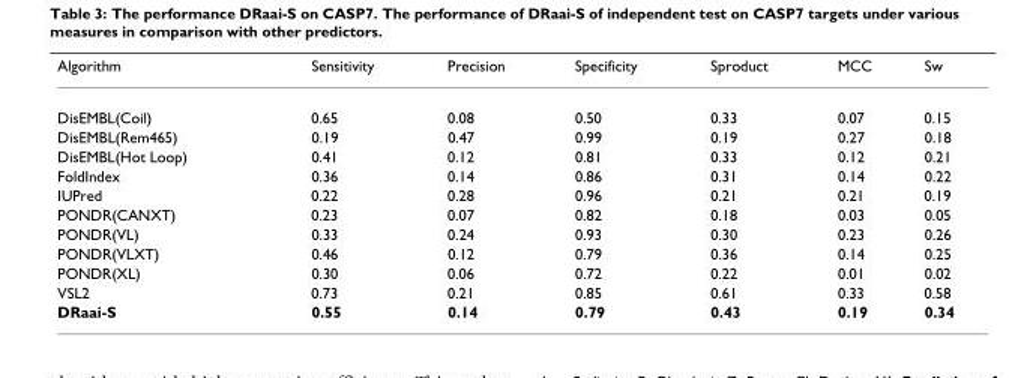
<table><thead><tr><td>Algorithm</td><td>Sensitivity</td><td>Precision</td><td>Specificity</td><td>Sproduct</td><td>MCC</td><td>Sw</td></tr></thead><tbody><tr><td>DisEMBL(Coil)</td><td>0.65</td><td>0.08</td><td>0.50</td><td>0.33</td><td>0.07</td><td>0.15</td></tr><tr><td>DisEMBL(Rem465)</td><td>0.19</td><td>0.47</td><td>0.99</td><td>0.19</td><td>0.27</td><td>0.18</td></tr><tr><td>DisEMBL(Hot Loop)</td><td>0.41</td><td>0.12</td><td>0.81</td><td>0.33</td><td>0.12</td><td>0.21</td></tr><tr><td>FoldIndex</td><td>0.36</td><td>0.14</td><td>0.86</td><td>0.31</td><td>0.14</td><td>0.22</td></tr><tr><td>IUPred</td><td>0.22</td><td>0.28</td><td>0.96</td><td>0.21</td><td>0.21</td><td>0.19</td></tr><tr><td>PONDR(CANXT)</td><td>0.23</td><td>0.07</td><td>0.82</td><td>0.18</td><td>0.03</td><td>0.05</td></tr><tr><td>PONDR(VL)</td><td>0.33</td><td>0.24</td><td>0.93</td><td>0.30</td><td>0.23</td><td>0.26</td></tr><tr><td>PONDR(VLXT)</td><td>0.46</td><td>0.12</td><td>0.79</td><td>0.36</td><td>0.14</td><td>0.25</td></tr><tr><td>PONDR(XL)</td><td>0.30</td><td>0.06</td><td>0.72</td><td>0.22</td><td>0.01</td><td>0.02</td></tr><tr><td>VSL2</td><td>0.73</td><td>0.21</td><td>0.85</td><td>0.61</td><td>0.33</td><td>0.58</td></tr><tr><td>DRaai-S</td><td>0.55</td><td>0.14</td><td>0.79</td><td>0.43</td><td>0.19</td><td>0.34</td></tr></tbody></table>